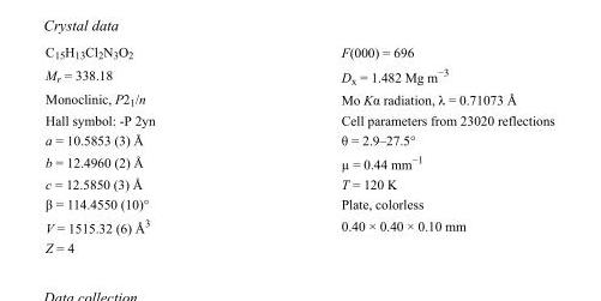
<table><tbody><tr><td>C<sub>15</sub>H<sub>13</sub>Cl<sub>2</sub>N<sub>3</sub>O<sub>2</sub></td><td>F(000) = 696</td></tr><tr><td>M<sub>r</sub> = 338.18</td><td>D<sub>x</sub> = 1.482 Mg m<sup>−3</sup></td></tr><tr><td>Monoclinic, P2<sub>1</sub>/n</td><td>Mo Kα radiation, λ = 0.71073 Å</td></tr><tr><td>Hall symbol: -P 2yn</td><td>Cell parameters from 23020 reflections</td></tr><tr><td>a = 10.5853 (3) Å</td><td>θ = 2.9–27.5°</td></tr><tr><td>b = 12.4960 (2) Å</td><td>µ = 0.44 mm<sup>−1</sup></td></tr><tr><td>c = 12.5850 (3) Å</td><td>T = 120 K</td></tr><tr><td>β = 114.4550 (10)°</td><td>Plate, colorless</td></tr><tr><td>V = 1515.32 (6) Å<sup>3</sup></td><td>0.40 × 0.40 × 0.10 mm</td></tr><tr><td>Z = 4</td><td></td></tr></tbody></table>